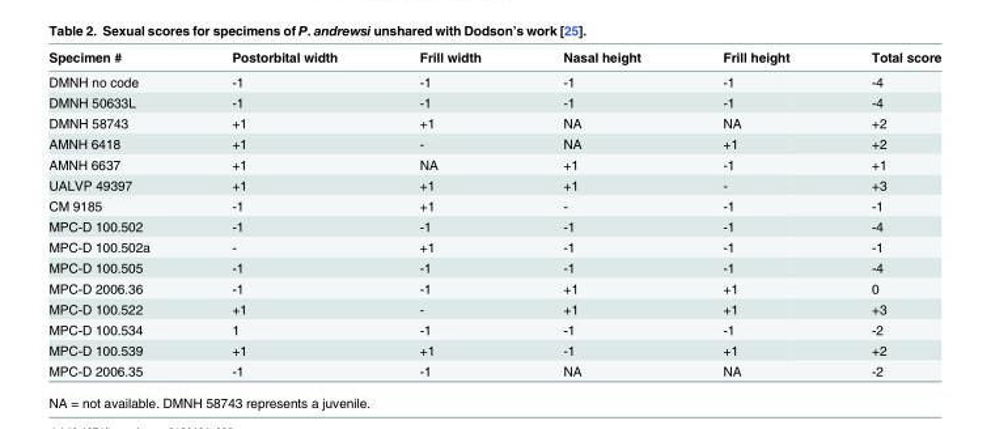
<table><thead><tr><td>Specimen #</td><td>Postorbital width</td><td>Frill width</td><td>Nasal height</td><td>Frill height</td><td>Total score</td></tr></thead><tbody><tr><td>DMNH no code</td><td>-1</td><td>-1</td><td>-1</td><td>-1</td><td>-4</td></tr><tr><td>DMNH 50633L</td><td>-1</td><td>-1</td><td>-1</td><td>-1</td><td>-4</td></tr><tr><td>DMNH 58743</td><td>+1</td><td>+1</td><td>NA</td><td>NA</td><td>+2</td></tr><tr><td>AMNH 6418</td><td>+1</td><td>-</td><td>NA</td><td>+1</td><td>+2</td></tr><tr><td>AMNH 6637</td><td>+1</td><td>NA</td><td>+1</td><td>-1</td><td>+1</td></tr><tr><td>UALVP 49397</td><td>+1</td><td>+1</td><td>+1</td><td>-</td><td>+3</td></tr><tr><td>CM 9185</td><td>-1</td><td>+1</td><td>-</td><td>-1</td><td>-1</td></tr><tr><td>MPC-D 100.502</td><td>-1</td><td>-1</td><td>-1</td><td>-1</td><td>-4</td></tr><tr><td>MPC-D 100.502a</td><td>-</td><td>+1</td><td>-1</td><td>-1</td><td>-1</td></tr><tr><td>MPC-D 100.505</td><td>-1</td><td>-1</td><td>-1</td><td>-1</td><td>-4</td></tr><tr><td>MPC-D 2006.36</td><td>-1</td><td>-1</td><td>+1</td><td>+1</td><td>0</td></tr><tr><td>MPC-D 100.522</td><td>+1</td><td>-</td><td>+1</td><td>+1</td><td>+3</td></tr><tr><td>MPC-D 100.534</td><td>1</td><td>-1</td><td>-1</td><td>-1</td><td>-2</td></tr><tr><td>MPC-D 100.539</td><td>+1</td><td>+1</td><td>-1</td><td>+1</td><td>+2</td></tr><tr><td>MPC-D 2006.35</td><td>-1</td><td>-1</td><td>NA</td><td>NA</td><td>-2</td></tr></tbody></table>